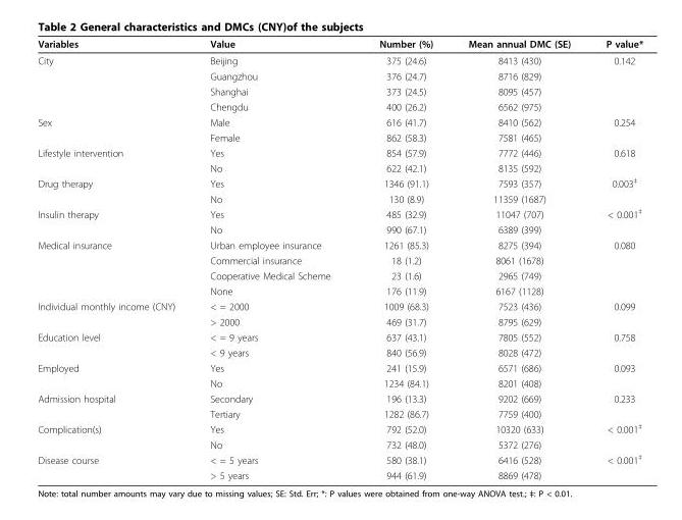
<table><thead><tr><td>Variables</td><td>Value</td><td>Number (%)</td><td>Mean annual DMC (SE)</td><td>P value*</td></tr></thead><tbody><tr><td rowspan="4">City</td><td>Beijing</td><td>375 (24.6)</td><td>8413 (430)</td><td>0.142</td></tr><tr><td>Guangzhou</td><td>376 (24.7)</td><td>8716 (829)</td><td></td></tr><tr><td>Shanghai</td><td>373 (24.5)</td><td>8095 (457)</td><td></td></tr><tr><td>Chengdu</td><td>400 (26.2)</td><td>6562 (975)</td><td></td></tr><tr><td rowspan="2">Sex</td><td>Male</td><td>616 (41.7)</td><td>8410 (562)</td><td>0.254</td></tr><tr><td>Female</td><td>862 (58.3)</td><td>7581 (465)</td><td></td></tr><tr><td rowspan="2">Lifestyle intervention</td><td>Yes</td><td>854 (57.9)</td><td>7772 (446)</td><td>0.618</td></tr><tr><td>No</td><td>622 (42.1)</td><td>8135 (592)</td><td></td></tr><tr><td rowspan="2">Drug therapy</td><td>Yes</td><td>1346 (91.1)</td><td>7593 (357)</td><td>0.003<sup>‡</sup></td></tr><tr><td>No</td><td>130 (8.9)</td><td>11359 (1687)</td><td></td></tr><tr><td rowspan="2">Insulin therapy</td><td>Yes</td><td>485 (32.9)</td><td>11047 (707)</td><td>&lt; 0.001<sup>‡</sup></td></tr><tr><td>No</td><td>990 (67.1)</td><td>6389 (399)</td><td></td></tr><tr><td rowspan="4">Medical insurance</td><td>Urban employee insurance</td><td>1261 (85.3)</td><td>8275 (394)</td><td>0.080</td></tr><tr><td>Commercial insurance</td><td>18 (1.2)</td><td>8061 (1678)</td><td></td></tr><tr><td>Cooperative Medical Scheme</td><td>23 (1.6)</td><td>2965 (749)</td><td></td></tr><tr><td>None</td><td>176 (11.9)</td><td>6167 (1128)</td><td></td></tr><tr><td rowspan="2">Individual monthly income (CNY)</td><td>&lt; = 2000</td><td>1009 (68.3)</td><td>7523 (436)</td><td>0.099</td></tr><tr><td>&gt; 2000</td><td>469 (31.7)</td><td>8795 (629)</td><td></td></tr><tr><td rowspan="2">Education level</td><td>&lt; = 9 years</td><td>637 (43.1)</td><td>7805 (552)</td><td>0.758</td></tr><tr><td>&lt; 9 years</td><td>840 (56.9)</td><td>8028 (472)</td><td></td></tr><tr><td rowspan="2">Employed</td><td>Yes</td><td>241 (15.9)</td><td>6571 (686)</td><td>0.093</td></tr><tr><td>No</td><td>1234 (84.1)</td><td>8201 (408)</td><td></td></tr><tr><td rowspan="2">Admission hospital</td><td>Secondary</td><td>196 (13.3)</td><td>9202 (669)</td><td>0.233</td></tr><tr><td>Tertiary</td><td>1282 (86.7)</td><td>7759 (400)</td><td></td></tr><tr><td rowspan="2">Complication(s)</td><td>Yes</td><td>792 (52.0)</td><td>10320 (633)</td><td>&lt; 0.001<sup>‡</sup></td></tr><tr><td>No</td><td>732 (48.0)</td><td>5372 (276)</td><td></td></tr><tr><td rowspan="2">Disease course</td><td>&lt; = 5 years</td><td>580 (38.1)</td><td>6416 (528)</td><td>&lt; 0.001<sup>‡</sup></td></tr><tr><td>&gt; 5 years</td><td>944 (61.9)</td><td>8869 (478)</td><td></td></tr></tbody></table>